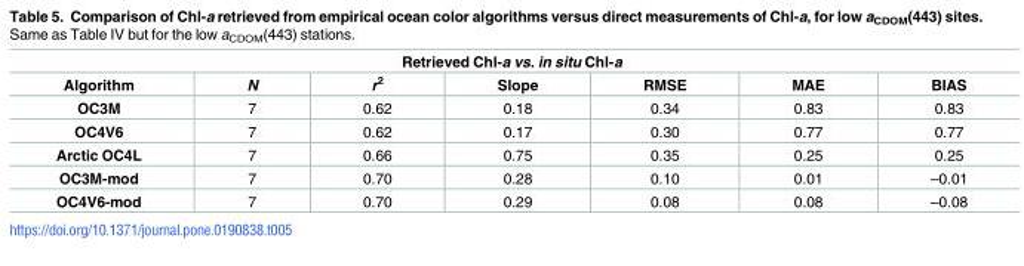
<table><thead><tr><td colspan="7">Retrieved Chl-a vs. in situ Chl-a</td></tr><tr><td>Algorithm</td><td>N</td><td>r<sup>2</sup></td><td>Slope</td><td>RMSE</td><td>MAE</td><td>BIAS</td></tr></thead><tbody><tr><td>OC3M</td><td>7</td><td>0.62</td><td>0.18</td><td>0.34</td><td>0.83</td><td>0.83</td></tr><tr><td>OC4V6</td><td>7</td><td>0.62</td><td>0.17</td><td>0.30</td><td>0.77</td><td>0.77</td></tr><tr><td>Arctic OC4L</td><td>7</td><td>0.66</td><td>0.75</td><td>0.35</td><td>0.25</td><td>0.25</td></tr><tr><td>OC3M-mod</td><td>7</td><td>0.70</td><td>0.28</td><td>0.10</td><td>0.01</td><td>–0.01</td></tr><tr><td>OC4V6-mod</td><td>7</td><td>0.70</td><td>0.29</td><td>0.08</td><td>0.08</td><td>–0.08</td></tr></tbody></table>